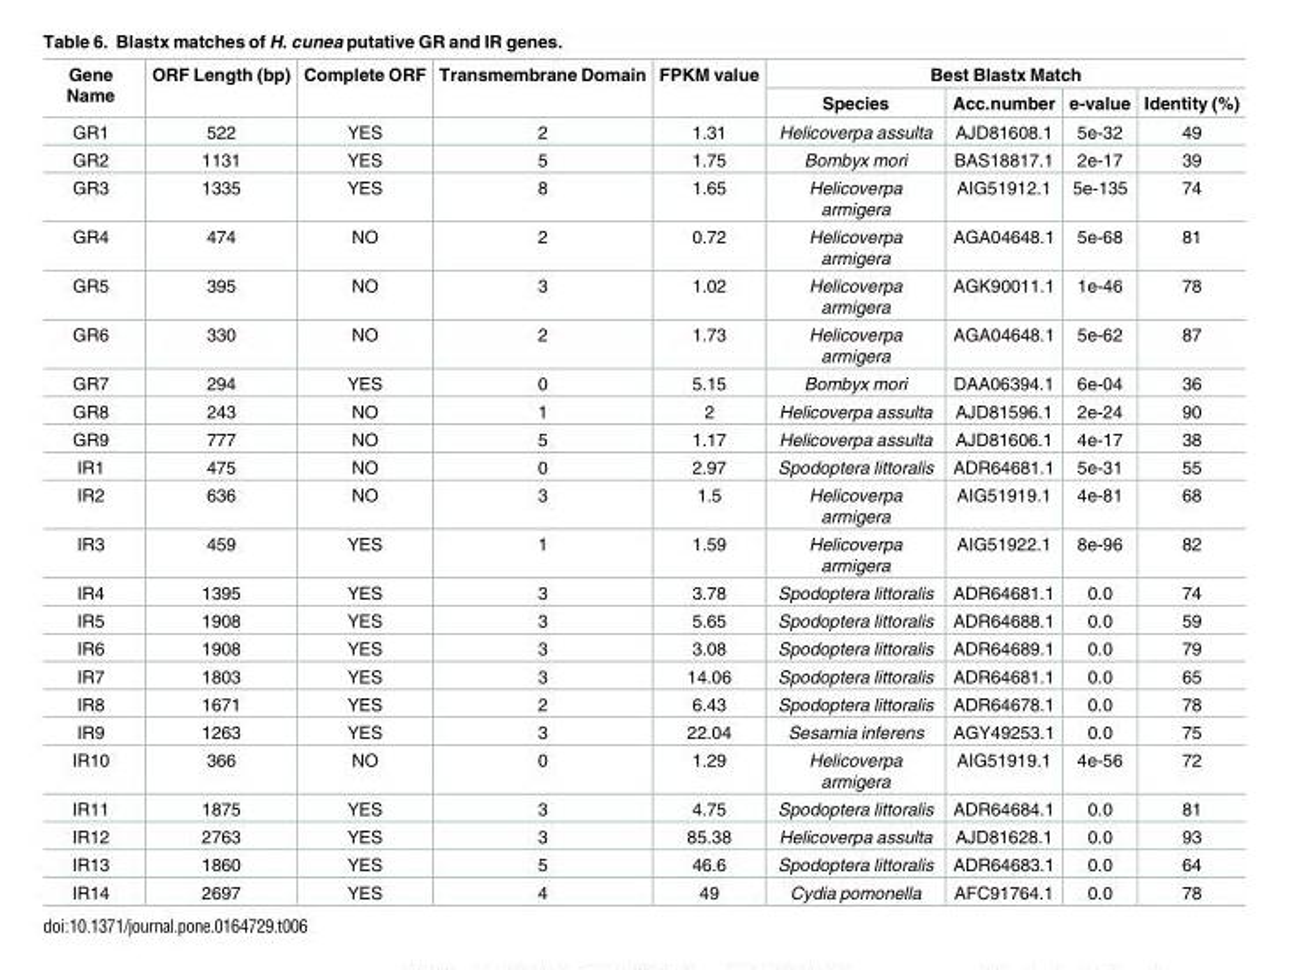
<table><thead><tr><td rowspan="2">Gene Name</td><td rowspan="2">ORF Length (bp)</td><td rowspan="2">Complete ORF</td><td rowspan="2">Transmembrane Domain</td><td rowspan="2">FPKM value</td><td colspan="4">Best Blastx Match</td></tr><tr><td>Species</td><td>Acc.number</td><td>e-value</td><td>Identity (%)</td></tr></thead><tbody><tr><td>GR1</td><td>522</td><td>YES</td><td>2</td><td>1.31</td><td>Helicoverpa assulta</td><td>AJD81608.1</td><td>5e-32</td><td>49</td></tr><tr><td>GR2</td><td>1131</td><td>YES</td><td>5</td><td>1.75</td><td>Bombyx mori</td><td>BAS18817.1</td><td>2e-17</td><td>39</td></tr><tr><td>GR3</td><td>1335</td><td>YES</td><td>8</td><td>1.65</td><td>Helicoverpa armigera</td><td>AIG51912.1</td><td>5e-135</td><td>74</td></tr><tr><td>GR4</td><td>474</td><td>NO</td><td>2</td><td>0.72</td><td>Helicoverpa armigera</td><td>AGA04648.1</td><td>5e-68</td><td>81</td></tr><tr><td>GR5</td><td>395</td><td>NO</td><td>3</td><td>1.02</td><td>Helicoverpa armigera</td><td>AGK90011.1</td><td>1e-46</td><td>78</td></tr><tr><td>GR6</td><td>330</td><td>NO</td><td>2</td><td>1.73</td><td>Helicoverpa armigera</td><td>AGA04648.1</td><td>5e-62</td><td>87</td></tr><tr><td>GR7</td><td>294</td><td>YES</td><td>0</td><td>5.15</td><td>Bombyx mori</td><td>DAA06394.1</td><td>6e-04</td><td>36</td></tr><tr><td>GR8</td><td>243</td><td>NO</td><td>1</td><td>2</td><td>Helicoverpa assulta</td><td>AJD81596.1</td><td>2e-24</td><td>90</td></tr><tr><td>GR9</td><td>777</td><td>NO</td><td>5</td><td>1.17</td><td>Helicoverpa assulta</td><td>AJD81606.1</td><td>4e-17</td><td>38</td></tr><tr><td>IR1</td><td>475</td><td>NO</td><td>0</td><td>2.97</td><td>Spodoptera littoralis</td><td>ADR64681.1</td><td>5e-31</td><td>55</td></tr><tr><td>IR2</td><td>636</td><td>NO</td><td>3</td><td>1.5</td><td>Helicoverpa armigera</td><td>AIG51919.1</td><td>4e-81</td><td>68</td></tr><tr><td>IR3</td><td>459</td><td>YES</td><td>1</td><td>1.59</td><td>Helicoverpa armigera</td><td>AIG51922.1</td><td>8e-96</td><td>82</td></tr><tr><td>IR4</td><td>1395</td><td>YES</td><td>3</td><td>3.78</td><td>Spodoptera littoralis</td><td>ADR64681.1</td><td>0.0</td><td>74</td></tr><tr><td>IR5</td><td>1908</td><td>YES</td><td>3</td><td>5.65</td><td>Spodoptera littoralis</td><td>ADR64688.1</td><td>0.0</td><td>59</td></tr><tr><td>IR6</td><td>1908</td><td>YES</td><td>3</td><td>3.08</td><td>Spodoptera littoralis</td><td>ADR64689.1</td><td>0.0</td><td>79</td></tr><tr><td>IR7</td><td>1803</td><td>YES</td><td>3</td><td>14.06</td><td>Spodoptera littoralis</td><td>ADR64681.1</td><td>0.0</td><td>65</td></tr><tr><td>IR8</td><td>1671</td><td>YES</td><td>2</td><td>6.43</td><td>Spodoptera littoralis</td><td>ADR64678.1</td><td>0.0</td><td>78</td></tr><tr><td>IR9</td><td>1263</td><td>YES</td><td>3</td><td>22.04</td><td>Sesamia inferens</td><td>AGY49253.1</td><td>0.0</td><td>75</td></tr><tr><td>IR10</td><td>366</td><td>NO</td><td>0</td><td>1.29</td><td>Helicoverpa armigera</td><td>AIG51919.1</td><td>4e-56</td><td>72</td></tr><tr><td>IR11</td><td>1875</td><td>YES</td><td>3</td><td>4.75</td><td>Spodoptera littoralis</td><td>ADR64684.1</td><td>0.0</td><td>81</td></tr><tr><td>IR12</td><td>2763</td><td>YES</td><td>3</td><td>85.38</td><td>Helicoverpa assulta</td><td>AJD81628.1</td><td>0.0</td><td>93</td></tr><tr><td>IR13</td><td>1860</td><td>YES</td><td>5</td><td>46.6</td><td>Spodoptera littoralis</td><td>ADR64683.1</td><td>0.0</td><td>64</td></tr><tr><td>IR14</td><td>2697</td><td>YES</td><td>4</td><td>49</td><td>Cydia pomonella</td><td>AFC91764.1</td><td>0.0</td><td>78</td></tr></tbody></table>